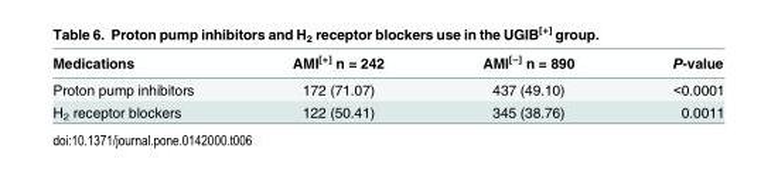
<table><thead><tr><td>Medications</td><td>AMI<sup>[+]</sup> n = 242</td><td>AMI<sup>[−]</sup> n = 890</td><td>P-value</td></tr></thead><tbody><tr><td>Proton pump inhibitors</td><td>172 (71.07)</td><td>437 (49.10)</td><td>&lt;0.0001</td></tr><tr><td>H<sub>2</sub> receptor blockers</td><td>122 (50.41)</td><td>345 (38.76)</td><td>0.0011</td></tr></tbody></table>